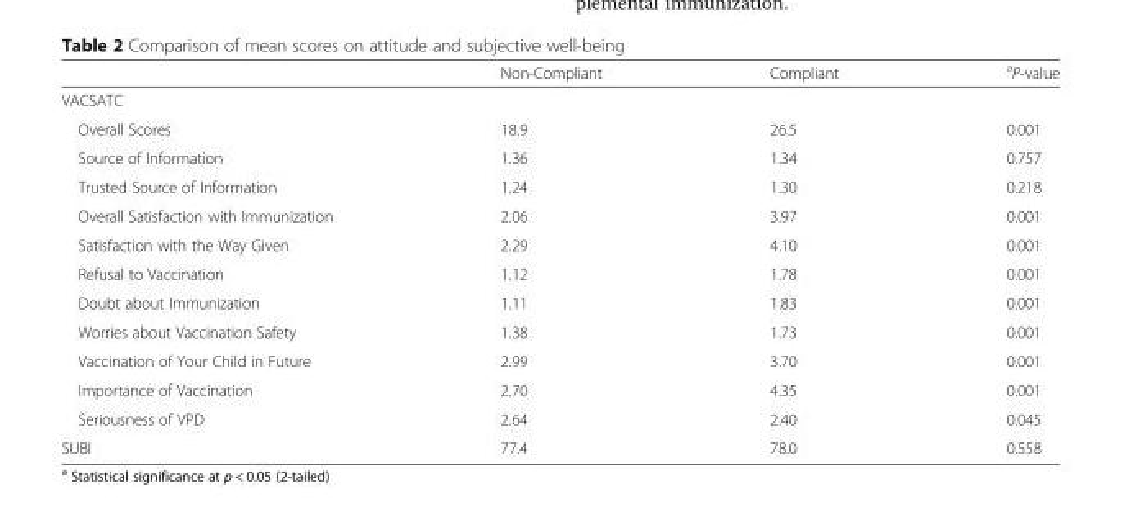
<table><thead><tr><td></td><td>Non-Compliant</td><td>Compliant</td><td><sup>a</sup>P-value</td></tr></thead><tbody><tr><td colspan="4">VACSATC</td></tr><tr><td>Overall Scores</td><td>18.9</td><td>26.5</td><td>0.001</td></tr><tr><td>Source of Information</td><td>1.36</td><td>1.34</td><td>0.757</td></tr><tr><td>Trusted Source of Information</td><td>1.24</td><td>1.30</td><td>0.218</td></tr><tr><td>Overall Satisfaction with Immunization</td><td>2.06</td><td>3.97</td><td>0.001</td></tr><tr><td>Satisfaction with the Way Given</td><td>2.29</td><td>4.10</td><td>0.001</td></tr><tr><td>Refusal to Vaccination</td><td>1.12</td><td>1.78</td><td>0.001</td></tr><tr><td>Doubt about Immunization</td><td>1.11</td><td>1.83</td><td>0.001</td></tr><tr><td>Worries about Vaccination Safety</td><td>1.38</td><td>1.73</td><td>0.001</td></tr><tr><td>Vaccination of Your Child in Future</td><td>2.99</td><td>3.70</td><td>0.001</td></tr><tr><td>Importance of Vaccination</td><td>2.70</td><td>4.35</td><td>0.001</td></tr><tr><td>Seriousness of VPD</td><td>2.64</td><td>2.40</td><td>0.045</td></tr><tr><td>SUBI</td><td>77.4</td><td>78.0</td><td>0.558</td></tr></tbody></table>